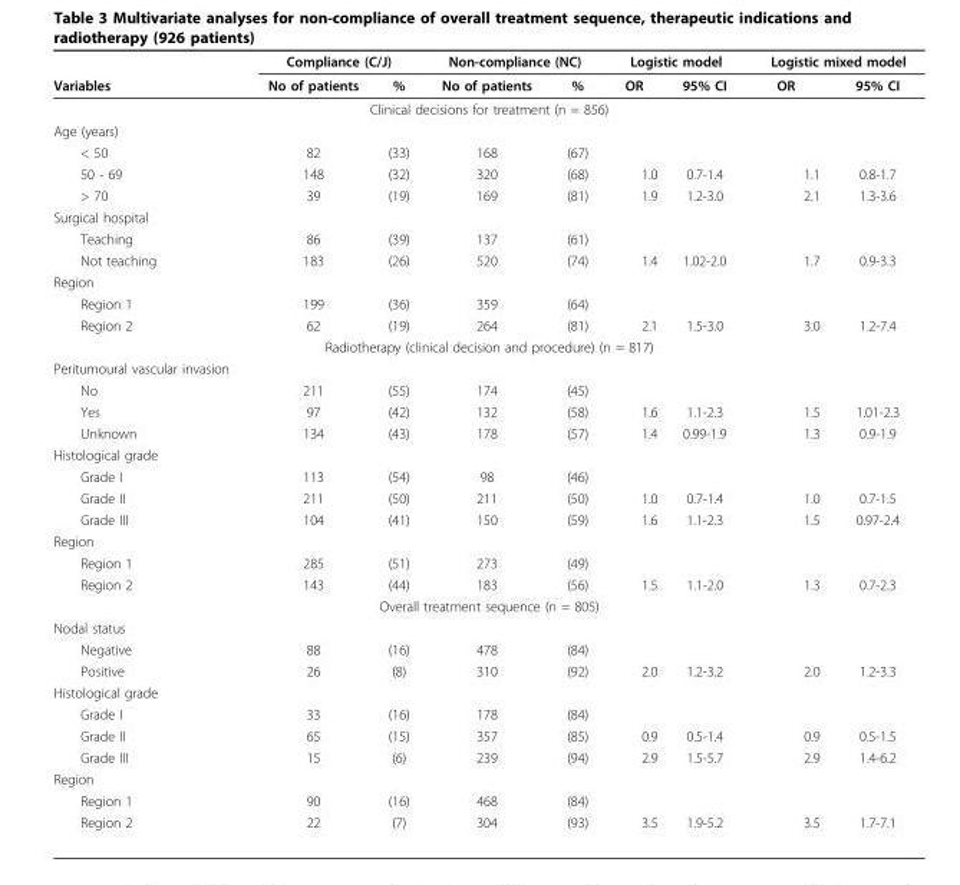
<table><thead><tr><td rowspan="2">Variables</td><td colspan="2">Compliance (C/J)</td><td colspan="2">Non-compliance (NC)</td><td colspan="2">Logistic model</td><td colspan="2">Logistic mixed model</td></tr><tr><td>No of patients</td><td>%</td><td>No of patients</td><td>%</td><td>OR</td><td>95% CI</td><td>OR</td><td>95% CI</td></tr></thead><tbody><tr><td colspan="9">Clinical decisions for treatment (n = 856)</td></tr><tr><td colspan="9">Age (years)</td></tr><tr><td>&lt; 50</td><td>82</td><td>(33)</td><td>168</td><td>(67)</td><td></td><td></td><td></td><td></td></tr><tr><td>50 - 69</td><td>148</td><td>(32)</td><td>320</td><td>(68)</td><td>1.0</td><td>0.7-1.4</td><td>1.1</td><td>0.8-1.7</td></tr><tr><td>&gt; 70</td><td>39</td><td>(19)</td><td>169</td><td>(81)</td><td>1.9</td><td>1.2-3.0</td><td>2.1</td><td>1.3-3.6</td></tr><tr><td colspan="9">Surgical hospital</td></tr><tr><td>Teaching</td><td>86</td><td>(39)</td><td>137</td><td>(61)</td><td></td><td></td><td></td><td></td></tr><tr><td>Not teaching</td><td>183</td><td>(26)</td><td>520</td><td>(74)</td><td>1.4</td><td>1.02-2.0</td><td>1.7</td><td>0.9-3.3</td></tr><tr><td colspan="9">Region</td></tr><tr><td>Region 1</td><td>199</td><td>(36)</td><td>359</td><td>(64)</td><td></td><td></td><td></td><td></td></tr><tr><td>Region 2</td><td>62</td><td>(19)</td><td>264</td><td>(81)</td><td>2.1</td><td>1.5-3.0</td><td>3.0</td><td>1.2-7.4</td></tr><tr><td colspan="9">Radiotherapy (clinical decision and procedure) (n = 817)</td></tr><tr><td colspan="9">Peritumoural vascular invasion</td></tr><tr><td>No</td><td>211</td><td>(55)</td><td>174</td><td>(45)</td><td></td><td></td><td></td><td></td></tr><tr><td>Yes</td><td>97</td><td>(42)</td><td>132</td><td>(58)</td><td>1.6</td><td>1.1-2.3</td><td>1.5</td><td>1.01-2.3</td></tr><tr><td>Unknown</td><td>134</td><td>(43)</td><td>178</td><td>(57)</td><td>1.4</td><td>0.99-1.9</td><td>1.3</td><td>0.9-1.9</td></tr><tr><td colspan="9">Histological grade</td></tr><tr><td>Grade I</td><td>113</td><td>(54)</td><td>98</td><td>(46)</td><td></td><td></td><td></td><td></td></tr><tr><td>Grade II</td><td>211</td><td>(50)</td><td>211</td><td>(50)</td><td>1.0</td><td>0.7-1.4</td><td>1.0</td><td>0.7-1.5</td></tr><tr><td>Grade III</td><td>104</td><td>(41)</td><td>150</td><td>(59)</td><td>1.6</td><td>1.1-2.3</td><td>1.5</td><td>0.97-2.4</td></tr><tr><td colspan="9">Region</td></tr><tr><td>Region 1</td><td>285</td><td>(51)</td><td>273</td><td>(49)</td><td></td><td></td><td></td><td></td></tr><tr><td>Region 2</td><td>143</td><td>(44)</td><td>183</td><td>(56)</td><td>1.5</td><td>1.1-2.0</td><td>1.3</td><td>0.7-2.3</td></tr><tr><td colspan="9">Overall treatment sequence (n = 805)</td></tr><tr><td colspan="9">Nodal status</td></tr><tr><td>Negative</td><td>88</td><td>(16)</td><td>478</td><td>(84)</td><td></td><td></td><td></td><td></td></tr><tr><td>Positive</td><td>26</td><td>(8)</td><td>310</td><td>(92)</td><td>2.0</td><td>1.2-3.2</td><td>2.0</td><td>1.2-3.3</td></tr><tr><td colspan="9">Histological grade</td></tr><tr><td>Grade I</td><td>33</td><td>(16)</td><td>178</td><td>(84)</td><td></td><td></td><td></td><td></td></tr><tr><td>Grade II</td><td>65</td><td>(15)</td><td>357</td><td>(85)</td><td>0.9</td><td>0.5-1.4</td><td>0.9</td><td>0.5-1.5</td></tr><tr><td>Grade III</td><td>15</td><td>(6)</td><td>239</td><td>(94)</td><td>2.9</td><td>1.5-5.7</td><td>2.9</td><td>1.4-6.2</td></tr><tr><td colspan="9">Region</td></tr><tr><td>Region 1</td><td>90</td><td>(16)</td><td>468</td><td>(84)</td><td></td><td></td><td></td><td></td></tr><tr><td>Region 2</td><td>22</td><td>(7)</td><td>304</td><td>(93)</td><td>3.5</td><td>1.9-5.2</td><td>3.5</td><td>1.7-7.1</td></tr></tbody></table>